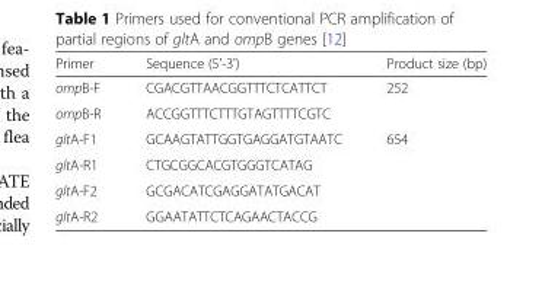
<table><thead><tr><td>Primer</td><td>Sequence (5&#x27;-3&#x27;)</td><td>Product size (bp)</td></tr></thead><tbody><tr><td>ompB-F</td><td>CGACGTTAACGGTTTCTCATTCT</td><td rowspan="2">252</td></tr><tr><td>ompB-R</td><td>ACCGGTTTCTTTGTAGTTTTCGTC</td></tr><tr><td>gltA-F1</td><td>GCAAGTATTGGTGAGGATGTAATC</td><td rowspan="4">654</td></tr><tr><td>gltA-R1</td><td>CTGCGGCACGTGGGTCATAG</td></tr><tr><td>gltA-F2</td><td>GCGACATCGAGGATATGACAT</td></tr><tr><td>gltA-R2</td><td>GGAATATTCTCAGAACTACCG</td></tr></tbody></table>